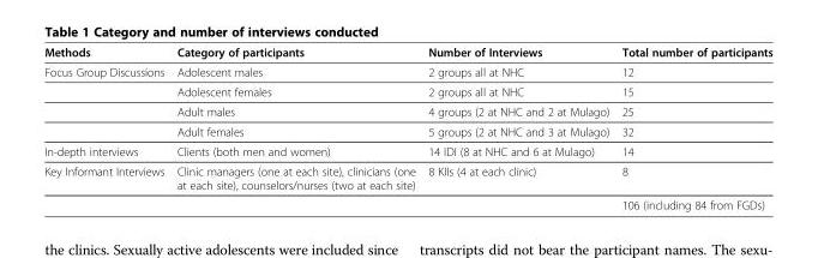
<table><thead><tr><td>Methods</td><td>Category of participants</td><td>Number of Interviews</td><td>Total number of participants</td></tr></thead><tbody><tr><td rowspan="4">Focus Group Discussions</td><td>Adolescent males</td><td>2 groups all at NHC</td><td>12</td></tr><tr><td>Adolescent females</td><td>2 groups all at NHC</td><td>15</td></tr><tr><td>Adult males</td><td>4 groups (2 at NHC and 2 at Mulago)</td><td>25</td></tr><tr><td>Adult females</td><td>5 groups (2 at NHC and 3 at Mulago)</td><td>32</td></tr><tr><td>In-depth interviews</td><td>Clients (both men and women)</td><td>14 IDI (8 at NHC and 6 at Mulago)</td><td>14</td></tr><tr><td rowspan="2">Key Informant Interviews</td><td>Clinic managers (one at each site), clinicians (one at each site), counselors/nurses (two at each site)</td><td>8 KIIs (4 at each clinic)</td><td>8</td></tr><tr><td></td><td></td><td>106 (including 84 from FGDs)</td></tr></tbody></table>